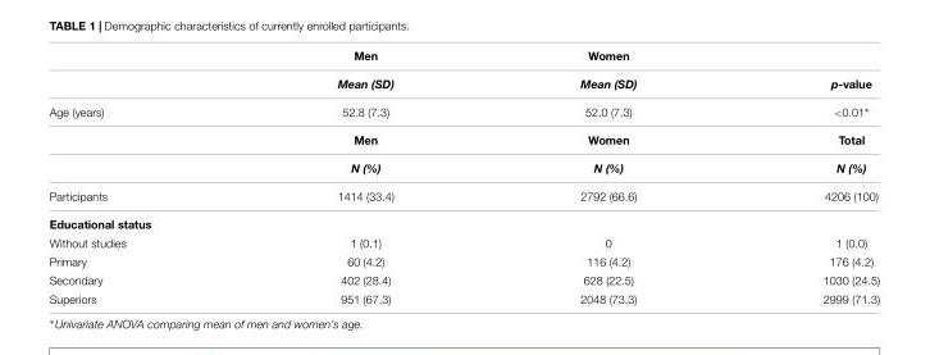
<table><thead><tr><td rowspan="2"></td><td rowspan="2">Men Mean (SD)</td><td rowspan="2">Women Mean (SD)</td><td rowspan="2">p-value</td></tr><tr></tr></thead><tbody><tr><td rowspan="3">Age (years)</td><td>52.8 (7.3)</td><td>52.0 (7.3)</td><td>&lt;0.01∗</td></tr><tr><td>Men</td><td>Women</td><td>Total</td></tr><tr><td>N (%)</td><td>N (%)</td><td>N (%)</td></tr><tr><td>Participants</td><td>1414 (33.4)</td><td>2792 (66.6)</td><td>4206 (100)</td></tr><tr><td colspan="4">Educational status</td></tr><tr><td>Without studies</td><td>1 (0.1)</td><td>0</td><td>1 (0.0)</td></tr><tr><td>Primary</td><td>60 (4.2)</td><td>116 (4.2)</td><td>176 (4.2)</td></tr><tr><td>Secondary</td><td>402 (28.4)</td><td>628 (22.5)</td><td>1030 (24.5)</td></tr><tr><td>Superiors</td><td>951 (67.3)</td><td>2048 (73.3)</td><td>2999 (71.3)</td></tr></tbody></table>